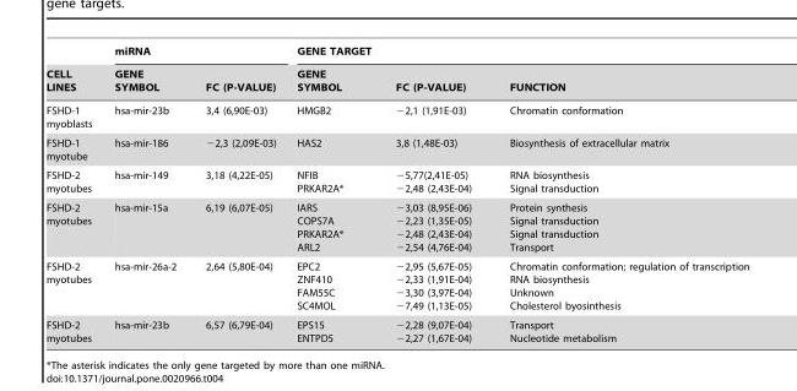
<table><thead><tr><td rowspan="2">CELL LINES</td><td colspan="2">miRNA</td><td colspan="3">GENE TARGET</td></tr><tr><td>GENE SYMBOL</td><td>FC (P-VALUE)</td><td>GENE SYMBOL</td><td>FC (P-VALUE)</td><td>FUNCTION</td></tr></thead><tbody><tr><td>FSHD-1 myoblasts</td><td>hsa-mir-23b</td><td>3,4 (6,90E-03)</td><td>HMGB2</td><td>−2,1 (1,91E-03)</td><td>Chromatin conformation</td></tr><tr><td>FSHD-1 myotube</td><td>hsa-mir-186</td><td>−2,3 (2,09E-03)</td><td>HAS2</td><td>3,8 (1,48E-03)</td><td>Biosynthesis of extracellular matrix</td></tr><tr><td>FSHD-2 myotubes</td><td>hsa-mir-149</td><td>3,18 (4,22E-05)</td><td>NFIB PRKAR2A*</td><td>−5,77(2,41E-05) −2,48 (2,43E-04)</td><td>RNA biosynthesis Signal transduction</td></tr><tr><td>FSHD-2 myotubes</td><td>hsa-mir-15a</td><td>6,19 (6,07E-05)</td><td>IARS COPS7A PRKAR2A* ARL2</td><td>−3,03 (8,95E-06) −2,23 (1,35E-05) −2,48 (2,43E-04) −2,54 (4,76E-04)</td><td>Protein synthesis Signal transduction Signal transduction Transport</td></tr><tr><td>FSHD-2 myotubes</td><td>hsa-mir-26a-2</td><td>2,64 (5,80E-04)</td><td>EPC2 ZNF410 FAM55C SC4MOL</td><td>−2,95 (5,67E-05) −2,33 (1,91E-04) −3,30 (3,97E-04) −7,49 (1,13E-05)</td><td>Chromatin conformation; regulation of transcription RNA biosynthesis Unknown Cholesterol byosinthesis</td></tr><tr><td>FSHD-2 myotubes</td><td>hsa-mir-23b</td><td>6,57 (6,79E-04)</td><td>EPS15 ENTPD5</td><td>−2,28 (9,07E-04) −2,27 (1,67E-04)</td><td>Transport Nucleotide metabolism</td></tr></tbody></table>